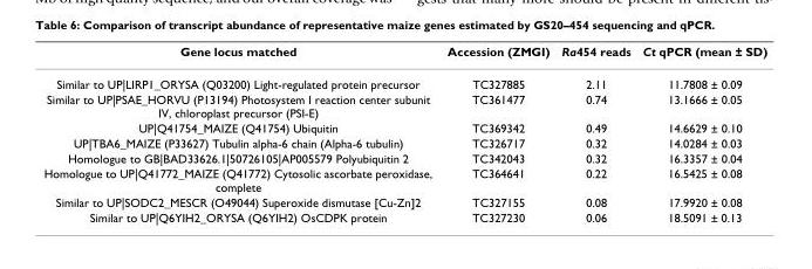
<table><thead><tr><td>Gene locus matched</td><td>Accession (ZMGI)</td><td>Ra454 reads</td><td>Ct qPCR (mean ± SD)</td></tr></thead><tbody><tr><td>Similar to UP|LIRP1_ORYSA (Q03200) Light-regulated protein precursor</td><td>TC327885</td><td>2.11</td><td>11.7808 ± 0.09</td></tr><tr><td>Similar to UP|PSAE_HORVU (P13194) Photosystem I reaction center subunit IV, chloroplast precursor (PSI-E)</td><td>TC361477</td><td>0.74</td><td>13.1666 ± 0.05</td></tr><tr><td>UP|Q41754_MAIZE (Q41754) Ubiquitin</td><td>TC369342</td><td>0.49</td><td>14.6629 ± 0.10</td></tr><tr><td>UP|TBA6_MAIZE (P33627) Tubulin alpha-6 chain (Alpha-6 tubulin)</td><td>TC326717</td><td>0.32</td><td>14.0284 ± 0.03</td></tr><tr><td>Homologue to GB|BAD33626.1|50726105|AP005579 Polyubiquitin 2</td><td>TC342043</td><td>0.32</td><td>16.3357 ± 0.04</td></tr><tr><td>Homologue to UP|Q41772_MAIZE (Q41772) Cytosolic ascorbate peroxidase, complete</td><td>TC364641</td><td>0.22</td><td>16.5425 ± 0.08</td></tr><tr><td>Similar to UP|SODC2_MESCR (O49044) Superoxide dismutase [Cu-Zn]2</td><td>TC327155</td><td>0.08</td><td>17.9920 ± 0.08</td></tr><tr><td>Similar to UP|Q6YIH2_ORYSA (Q6YIH2) OsCDPK protein</td><td>TC327230</td><td>0.06</td><td>18.5091 ± 0.13</td></tr></tbody></table>